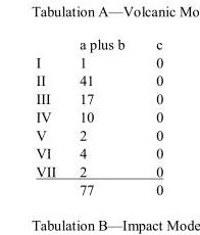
<table><thead><tr><td></td><td>a plus b</td><td>c</td></tr></thead><tbody><tr><td>I</td><td>1</td><td>0</td></tr><tr><td>II</td><td>41</td><td>0</td></tr><tr><td>III</td><td>17</td><td>0</td></tr><tr><td>IV</td><td>10</td><td>0</td></tr><tr><td>V</td><td>2</td><td>0</td></tr><tr><td>VI</td><td>4</td><td>0</td></tr><tr><td rowspan="2">VII</td><td>2</td><td>0</td></tr><tr><td>77</td><td>0</td></tr></tbody></table>